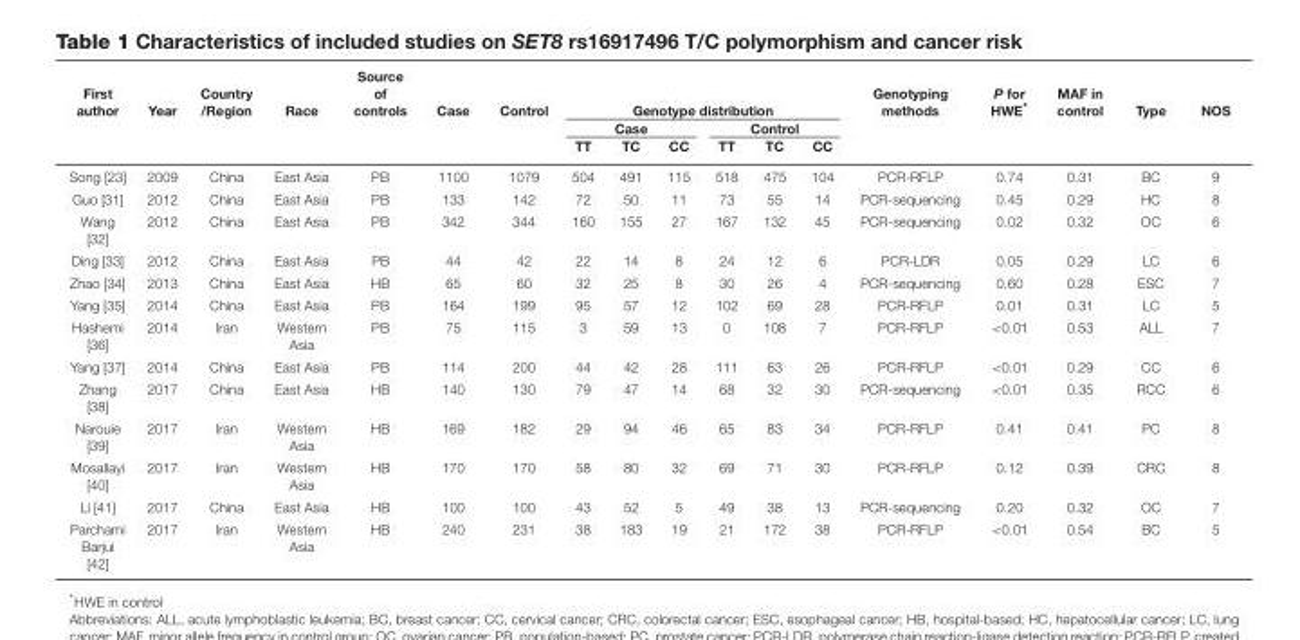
<table><thead><tr><td rowspan="3">First author</td><td rowspan="3">Year</td><td rowspan="3">Country /Region</td><td rowspan="3">Race</td><td rowspan="3">Source of controls</td><td rowspan="3">Case</td><td rowspan="3">Control</td><td colspan="6">Genotype distribution</td><td rowspan="3">Genotyping methods</td><td rowspan="3">P for HWE*</td><td rowspan="3">MAF in control</td><td rowspan="3">Type</td><td rowspan="3">NOS</td></tr><tr><td colspan="3">Case</td><td colspan="3">Control</td></tr><tr><td>TT</td><td>TC</td><td>CC</td><td>TT</td><td>TC</td><td>CC</td></tr></thead><tbody><tr><td>Song [23]</td><td>2009</td><td>China</td><td>East Asia</td><td>PB</td><td>1100</td><td>1079</td><td>504</td><td>491</td><td>115</td><td>518</td><td>475</td><td>104</td><td>PCR-RFLP</td><td>0.74</td><td>0.31</td><td>BC</td><td>9</td></tr><tr><td>Guo [31]</td><td>2012</td><td>China</td><td>East Asia</td><td>PB</td><td>133</td><td>142</td><td>72</td><td>50</td><td>11</td><td>73</td><td>55</td><td>14</td><td>PCR-sequencing</td><td>0.45</td><td>0.29</td><td>HC</td><td>8</td></tr><tr><td>Wang [32]</td><td>2012</td><td>China</td><td>East Asia</td><td>PB</td><td>342</td><td>344</td><td>160</td><td>155</td><td>27</td><td>167</td><td>132</td><td>45</td><td>PCR-sequencing</td><td>0.02</td><td>0.32</td><td>OC</td><td>6</td></tr><tr><td>Ding [33]</td><td>2012</td><td>China</td><td>East Asia</td><td>PB</td><td>44</td><td>42</td><td>22</td><td>14</td><td>8</td><td>24</td><td>12</td><td>6</td><td>PCR-LDR</td><td>0.05</td><td>0.29</td><td>LC</td><td>6</td></tr><tr><td>Zhao [34]</td><td>2013</td><td>China</td><td>East Asia</td><td>HB</td><td>65</td><td>60</td><td>32</td><td>25</td><td>8</td><td>30</td><td>26</td><td>4</td><td>PCR-sequencing</td><td>0.60</td><td>0.28</td><td>ESC</td><td>7</td></tr><tr><td>Yang [35]</td><td>2014</td><td>China</td><td>East Asia</td><td>PB</td><td>164</td><td>199</td><td>95</td><td>57</td><td>12</td><td>102</td><td>69</td><td>28</td><td>PCR-RFLP</td><td>0.01</td><td>0.31</td><td>LC</td><td>5</td></tr><tr><td>Hashemi [36]</td><td>2014</td><td>Iran</td><td>Western Asia</td><td>PB</td><td>75</td><td>115</td><td>3</td><td>59</td><td>13</td><td>0</td><td>108</td><td>7</td><td>PCR-RFLP</td><td>&lt;0.01</td><td>0.53</td><td>ALL</td><td>7</td></tr><tr><td>Yang [37]</td><td>2014</td><td>China</td><td>East Asia</td><td>PB</td><td>114</td><td>200</td><td>44</td><td>42</td><td>28</td><td>111</td><td>63</td><td>26</td><td>PCR-RFLP</td><td>&lt;0.01</td><td>0.29</td><td>CC</td><td>6</td></tr><tr><td>Zhang [38]</td><td>2017</td><td>China</td><td>East Asia</td><td>HB</td><td>140</td><td>130</td><td>79</td><td>47</td><td>14</td><td>68</td><td>32</td><td>30</td><td>PCR-sequencing</td><td>&lt;0.01</td><td>0.35</td><td>RCC</td><td>6</td></tr><tr><td>Narouie [39]</td><td>2017</td><td>Iran</td><td>Western Asia</td><td>HB</td><td>169</td><td>182</td><td>29</td><td>94</td><td>46</td><td>65</td><td>83</td><td>34</td><td>PCR-RFLP</td><td>0.41</td><td>0.41</td><td>PC</td><td>8</td></tr><tr><td>Mosallayi [40]</td><td>2017</td><td>Iran</td><td>Western Asia</td><td>HB</td><td>170</td><td>170</td><td>58</td><td>80</td><td>32</td><td>69</td><td>71</td><td>30</td><td>PCR-RFLP</td><td>0.12</td><td>0.39</td><td>CRC</td><td>8</td></tr><tr><td>Li [41]</td><td>2017</td><td>China</td><td>East Asia</td><td>HB</td><td>100</td><td>100</td><td>43</td><td>52</td><td>5</td><td>49</td><td>38</td><td>13</td><td>PCR-sequencing</td><td>0.20</td><td>0.32</td><td>OC</td><td>7</td></tr><tr><td>Parchami Barjui [42]</td><td>2017</td><td>Iran</td><td>Western Asia</td><td>HB</td><td>240</td><td>231</td><td>38</td><td>183</td><td>19</td><td>21</td><td>172</td><td>38</td><td>PCR-RFLP</td><td>&lt;0.01</td><td>0.54</td><td>BC</td><td>5</td></tr></tbody></table>